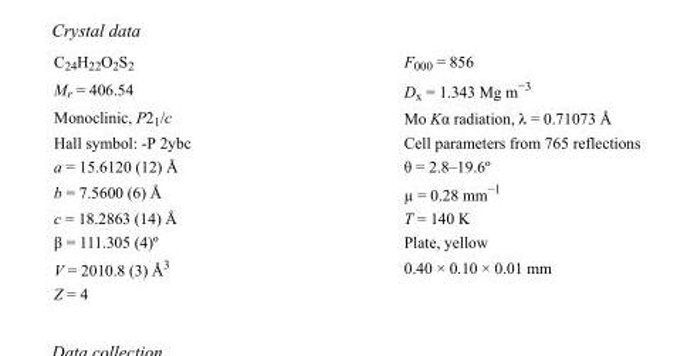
<table><tbody><tr><td>C<sub>24</sub>H<sub>22</sub>O<sub>2</sub>S<sub>2</sub></td><td>F000 = 856</td></tr><tr><td>M<sub>r</sub> = 406.54</td><td>D<sub>x</sub> = 1.343 Mg m<sup>−3</sup></td></tr><tr><td>Monoclinic, P2<sub>1</sub>/c</td><td>Mo Kα radiation, λ = 0.71073 Å</td></tr><tr><td>Hall symbol: -P 2ybc</td><td>Cell parameters from 765 reflections</td></tr><tr><td>a = 15.6120 (12) Å</td><td>θ = 2.8–19.6º</td></tr><tr><td>b = 7.5600 (6) Å</td><td>µ = 0.28 mm<sup>−1</sup></td></tr><tr><td>c = 18.2863 (14) Å</td><td>T = 140 K</td></tr><tr><td>β = 111.305 (4)º</td><td>Plate, yellow</td></tr><tr><td>V = 2010.8 (3) Å<sup>3</sup></td><td>0.40 × 0.10 × 0.01 mm</td></tr><tr><td>Z = 4</td><td></td></tr></tbody></table>